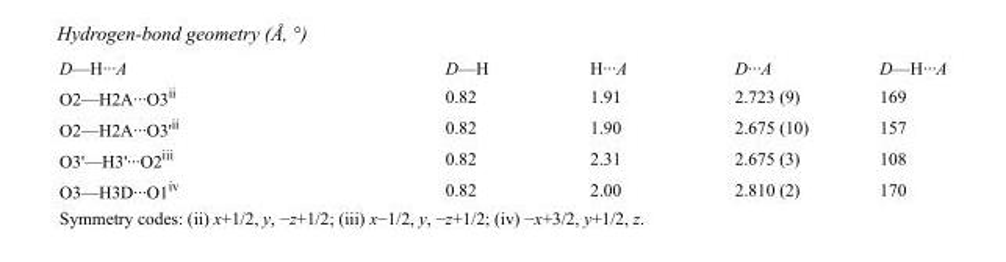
<table><tbody><tr><td>D—H···A</td><td>D—H</td><td>H···A</td><td>D···A</td><td>D—H···A</td></tr><tr><td>O2—H2A···O3<sup>ii</sup></td><td>0.82</td><td>1.91</td><td>2.723 (9)</td><td>169</td></tr><tr><td>O2—H2A···O3&#x27;<sup>ii</sup></td><td>0.82</td><td>1.90</td><td>2.675 (10)</td><td>157</td></tr><tr><td>O3&#x27;—H3&#x27;···O2<sup>iii</sup></td><td>0.82</td><td>2.31</td><td>2.675 (3)</td><td>108</td></tr><tr><td>O3—H3D···O1<sup>iv</sup></td><td>0.82</td><td>2.00</td><td>2.810 (2)</td><td>170</td></tr></tbody></table>